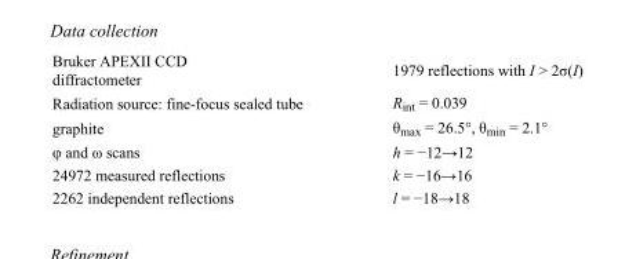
<table><tbody><tr><td>Bruker APEXII CCD diffractometer</td><td>1979 reflections with I &gt; 2σ(I)</td></tr><tr><td>Radiation source: fine-focus sealed tube</td><td>R<sub>int</sub> = 0.039</td></tr><tr><td>graphite</td><td>θ<sub>max</sub> = 26.5°, θ<sub>min</sub> = 2.1°</td></tr><tr><td>φ and ω scans</td><td>h = −12→12</td></tr><tr><td>24972 measured reflections</td><td>k = −16→16</td></tr><tr><td>2262 independent reflections</td><td>l = −18→18</td></tr></tbody></table>